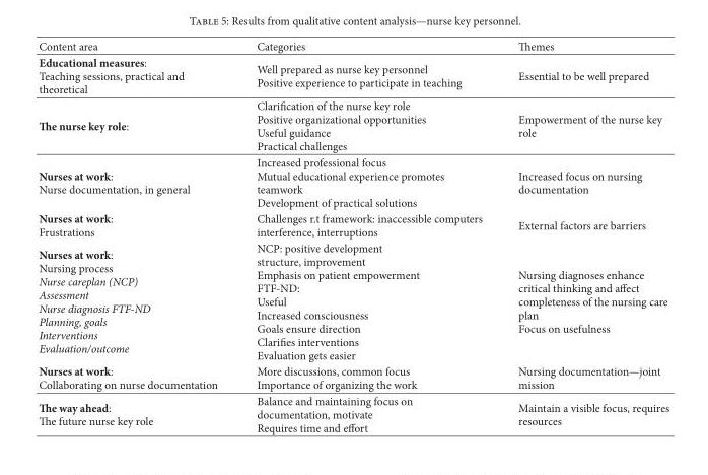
<table><thead><tr><td>Content area</td><td>Categories</td><td>Themes</td></tr></thead><tbody><tr><td>Educational measures: Teaching sessions, practical and theoretical</td><td>Well prepared as nurse key personnel Positive experience to participate in teaching</td><td>Essential to be well prepared</td></tr><tr><td>The nurse key role:</td><td>Clarification of the nurse key role Positive organizational opportunities Useful guidance Practical challenges</td><td>Empowerment of the nurse key role</td></tr><tr><td>Nurses at work: Nurse documentation, in general</td><td>Increased professional focus Mutual educational experience promotes teamwork Development of practical solutions</td><td>Increased focus on nursing documentation</td></tr><tr><td>Nurses at work: Frustrations</td><td>Challenges r.t framework: inaccessible computers interference, interruptions</td><td>External factors are barriers</td></tr><tr><td>Nurses at work: Nursing process Nurse careplan (NCP) Assessment Nurse diagnosis FTF-ND Planning, goals Interventions Evaluation/outcome</td><td>NCP: positive development structure, improvement Emphasis on patient empowerment FTF-ND: Useful Increased consciousness Goals ensure direction Clarifies interventions Evaluation gets easier</td><td>Nursing diagnoses enhance critical thinking and affect completeness of the nursing care plan Focus on usefulness</td></tr><tr><td>Nurses at work: Collaborating on nurse documentation</td><td>More discussions, common focus Importance of organizing the work</td><td>Nursing documentation—joint mission</td></tr><tr><td>The way ahead: The future nurse key role</td><td>Balance and maintaining focus on documentation, motivate Requires time and effort</td><td>Maintain a visible focus, requires resources</td></tr></tbody></table>